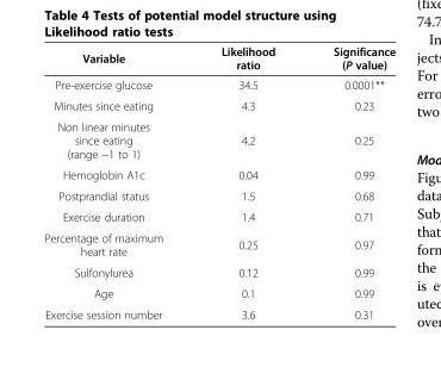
<table><thead><tr><td>Variable</td><td>Likelihood ratio</td><td>Significance (P value)</td></tr></thead><tbody><tr><td>Pre-exercise glucose</td><td>34.5</td><td>0.0001**</td></tr><tr><td>Minutes since eating</td><td>4.3</td><td>0.23</td></tr><tr><td>Non linear minutes since eating (range −1 to 1)</td><td>4.2</td><td>0.25</td></tr><tr><td>Hemoglobin A1c</td><td>0.04</td><td>0.99</td></tr><tr><td>Postprandial status</td><td>1.5</td><td>0.68</td></tr><tr><td>Exercise duration</td><td>1.4</td><td>0.71</td></tr><tr><td>Percentage of maximum heart rate</td><td>0.25</td><td>0.97</td></tr><tr><td>Sulfonylurea</td><td>0.12</td><td>0.99</td></tr><tr><td>Age</td><td>0.1</td><td>0.99</td></tr><tr><td>Exercise session number</td><td>3.6</td><td>0.31</td></tr></tbody></table>